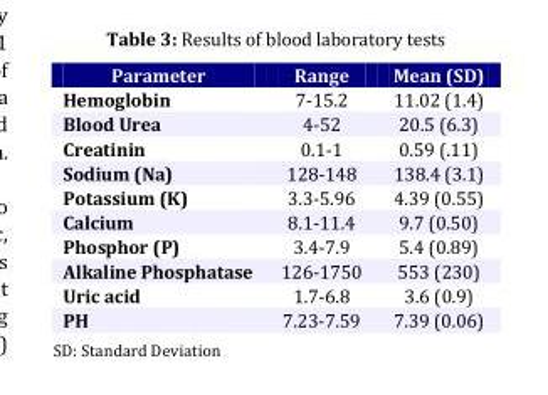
<table><tbody><tr><td>Parameter</td><td>Range</td><td>Mean (SD)</td></tr><tr><td>Hemoglobin</td><td>7-15.2</td><td>11.02 (1.4)</td></tr><tr><td>Blood Urea</td><td>4-52</td><td>20.5 (6.3)</td></tr><tr><td>Creatinin</td><td>0.1-1</td><td>0.59 (.11)</td></tr><tr><td>Sodium (Na)</td><td>128-148</td><td>138.4 (3.1)</td></tr><tr><td>Potassium (K)</td><td>3.3-5.96</td><td>4.39 (0.55)</td></tr><tr><td>Calcium</td><td>8.1-11.4</td><td>9.7 (0.50)</td></tr><tr><td>Phosphor (P)</td><td>3.4-7.9</td><td>5.4 (0.89)</td></tr><tr><td>Alkaline Phosphatase</td><td>126-1750</td><td>553 (230)</td></tr><tr><td>Uric acid</td><td>1.7-6.8</td><td>3.6 (0.9)</td></tr><tr><td>PH</td><td>7.23-7.59</td><td>7.39 (0.06)</td></tr></tbody></table>